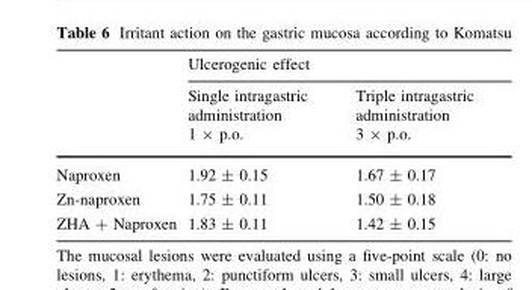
<table><thead><tr><td rowspan="2"></td><td colspan="2">Ulcerogenic effect</td></tr><tr><td>Single intragastric administration 1 × p.o.</td><td>Triple intragastric administration 3 × p.o.</td></tr></thead><tbody><tr><td>Naproxen</td><td>1.92 ± 0.15</td><td>1.67 ± 0.17</td></tr><tr><td>Zn-naproxen</td><td>1.75 ± 0.11</td><td>1.50 ± 0.18</td></tr><tr><td>ZHA + Naproxen</td><td>1.83 ± 0.11</td><td>1.42 ± 0.15</td></tr></tbody></table>